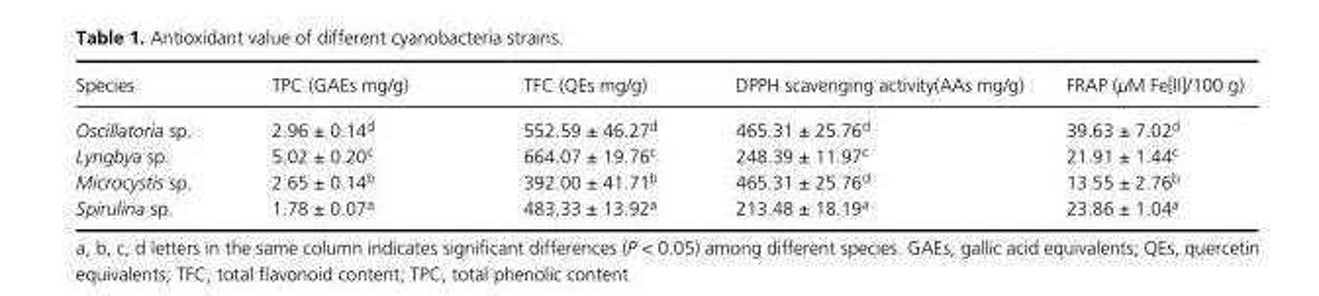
<table><thead><tr><td>Species</td><td>TPC (GAEs mg/g)</td><td>TFC (QEs mg/g)</td><td>DPPH scavenging activity(AAs mg/g)</td><td>FRAP (μM Fe[II]/100 g)</td></tr></thead><tbody><tr><td>Oscillatoria sp.</td><td>2.96 ± 0.14<sup>d</sup></td><td>552.59 ± 46.27<sup>d</sup></td><td>465.31 ± 25.76<sup>d</sup></td><td>39.63 ± 7.02<sup>d</sup></td></tr><tr><td>Lyngbya sp.</td><td>5.02 ± 0.20<sup>c</sup></td><td>664.07 ± 19.76<sup>c</sup></td><td>248.39 ± 11.97<sup>c</sup></td><td>21.91 ± 1.44<sup>c</sup></td></tr><tr><td>Microcystis sp.</td><td>2.65 ± 0.14<sup>b</sup></td><td>392.00 ± 41.71<sup>b</sup></td><td>465.31 ± 25.76<sup>d</sup></td><td>13.55 ± 2.76<sup>b</sup></td></tr><tr><td>Spirulina sp.</td><td>1.78 ± 0.07<sup>a</sup></td><td>483.33 ± 13.92<sup>a</sup></td><td>213.48 ± 18.19<sup>a</sup></td><td>23.86 ± 1.04<sup>a</sup></td></tr></tbody></table>